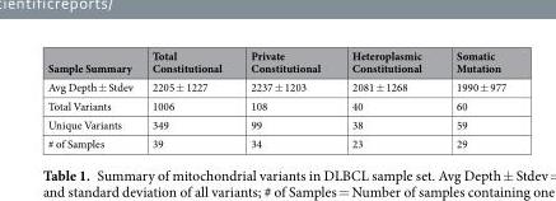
<table><thead><tr><td>Sample Summary</td><td>Total Constitutional</td><td>Private Constitutional</td><td>Heteroplasmic Constitutional</td><td>Somatic Mutation</td></tr></thead><tbody><tr><td>Avg Depth ± Stdev</td><td>2205 ± 1227</td><td>2237 ± 1203</td><td>2081 ± 1268</td><td>1990 ± 977</td></tr><tr><td>Total Variants</td><td>1006</td><td>108</td><td>40</td><td>60</td></tr><tr><td>Unique Variants</td><td>349</td><td>99</td><td>38</td><td>59</td></tr><tr><td># of Samples</td><td>39</td><td>34</td><td>23</td><td>29</td></tr></tbody></table>